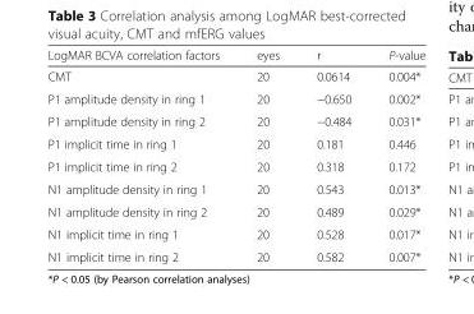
<table><thead><tr><td>LogMAR BCVA correlation factors</td><td>eyes</td><td>r</td><td>P-value</td></tr></thead><tbody><tr><td>CMT</td><td>20</td><td>0.0614</td><td>0.004*</td></tr><tr><td>P1 amplitude density in ring 1</td><td>20</td><td>−0.650</td><td>0.002*</td></tr><tr><td>P1 amplitude density in ring 2</td><td>20</td><td>−0.484</td><td>0.031*</td></tr><tr><td>P1 implicit time in ring 1</td><td>20</td><td>0.181</td><td>0.446</td></tr><tr><td>P1 implicit time in ring 2</td><td>20</td><td>0.318</td><td>0.172</td></tr><tr><td>N1 amplitude density in ring 1</td><td>20</td><td>0.543</td><td>0.013*</td></tr><tr><td>N1 amplitude density in ring 2</td><td>20</td><td>0.489</td><td>0.029*</td></tr><tr><td>N1 implicit time in ring 1</td><td>20</td><td>0.528</td><td>0.017*</td></tr><tr><td>N1 implicit time in ring 2</td><td>20</td><td>0.582</td><td>0.007*</td></tr></tbody></table>